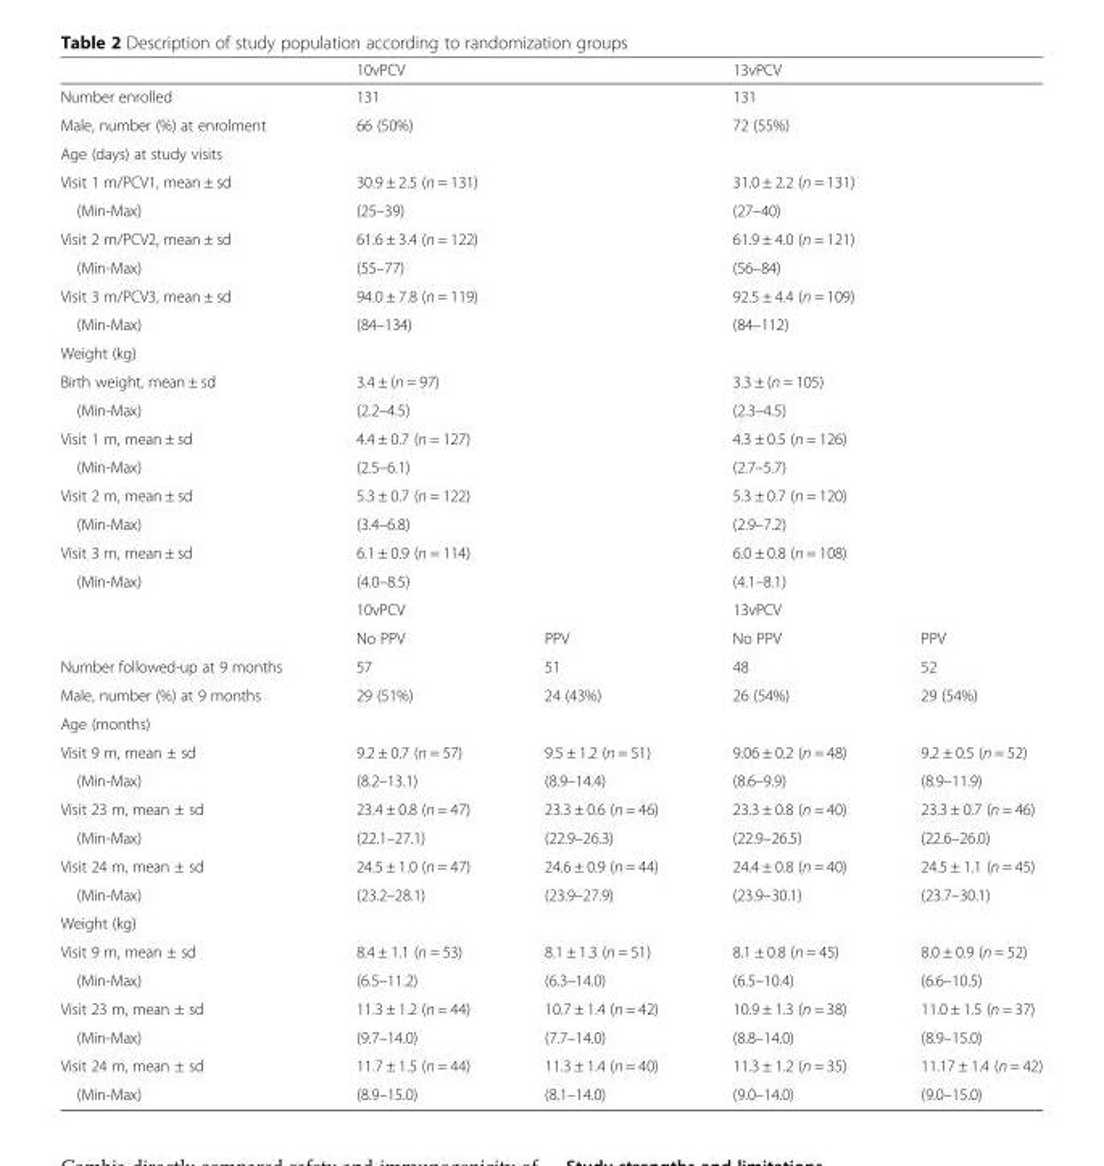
<table><thead><tr><td></td><td colspan="2">10vPCV</td><td colspan="2">13vPCV</td></tr></thead><tbody><tr><td>Number enrolled</td><td colspan="2">131</td><td colspan="2">131</td></tr><tr><td>Male, number (%) at enrolment</td><td colspan="2">66 (50%)</td><td colspan="2">72 (55%)</td></tr><tr><td colspan="5">Age (days) at study visits</td></tr><tr><td>Visit 1 m/PCV1, mean ± sd</td><td colspan="2">30.9 ± 2.5 (n = 131)</td><td colspan="2">31.0 ± 2.2 (n = 131)</td></tr><tr><td>(Min-Max)</td><td colspan="2">(25–39)</td><td colspan="2">(27–40)</td></tr><tr><td>Visit 2 m/PCV2, mean ± sd</td><td colspan="2">61.6 ± 3.4 (n = 122)</td><td colspan="2">61.9 ± 4.0 (n = 121)</td></tr><tr><td>(Min-Max)</td><td colspan="2">(55–77)</td><td colspan="2">(56–84)</td></tr><tr><td>Visit 3 m/PCV3, mean ± sd</td><td colspan="2">94.0 ± 7.8 (n = 119)</td><td colspan="2">92.5 ± 4.4 (n = 109)</td></tr><tr><td>(Min-Max)</td><td colspan="2">(84–134)</td><td colspan="2">(84–112)</td></tr><tr><td colspan="5">Weight (kg)</td></tr><tr><td>Birth weight, mean ± sd</td><td colspan="2">3.4 ± (n = 97)</td><td colspan="2">3.3 ± (n = 105)</td></tr><tr><td>(Min-Max)</td><td colspan="2">(2.2–4.5)</td><td colspan="2">(2.3–4.5)</td></tr><tr><td>Visit 1 m, mean ± sd</td><td colspan="2">4.4 ± 0.7 (n = 127)</td><td colspan="2">4.3 ± 0.5 (n = 126)</td></tr><tr><td>(Min-Max)</td><td colspan="2">(2.5–6.1)</td><td colspan="2">(2.7–5.7)</td></tr><tr><td>Visit 2 m, mean ± sd</td><td colspan="2">5.3 ± 0.7 (n = 122)</td><td colspan="2">5.3 ± 0.7 (n = 120)</td></tr><tr><td>(Min-Max)</td><td colspan="2">(3.4–6.8)</td><td colspan="2">(2.9–7.2)</td></tr><tr><td>Visit 3 m, mean ± sd</td><td colspan="2">6.1 ± 0.9 (n = 114)</td><td colspan="2">6.0 ± 0.8 (n = 108)</td></tr><tr><td rowspan="3">(Min-Max)</td><td colspan="2">(4.0–8.5)</td><td colspan="2">(4.1–8.1)</td></tr><tr><td colspan="2">10vPCV</td><td colspan="2">13vPCV</td></tr><tr><td>No PPV</td><td>PPV</td><td>No PPV</td><td>PPV</td></tr><tr><td>Number followed-up at 9 months</td><td>57</td><td>51</td><td>48</td><td>52</td></tr><tr><td>Male, number (%) at 9 months</td><td>29 (51%)</td><td>24 (43%)</td><td>26 (54%)</td><td>29 (54%)</td></tr><tr><td colspan="5">Age (months)</td></tr><tr><td>Visit 9 m, mean ± sd</td><td>9.2 ± 0.7 (n = 57)</td><td>9.5 ± 1.2 (n = 51)</td><td>9.06 ± 0.2 (n = 48)</td><td>9.2 ± 0.5 (n = 52)</td></tr><tr><td>(Min-Max)</td><td>(8.2–13.1)</td><td>(8.9–14.4)</td><td>(8.6–9.9)</td><td>(8.9–11.9)</td></tr><tr><td>Visit 23 m, mean ± sd</td><td>23.4 ± 0.8 (n = 47)</td><td>23.3 ± 0.6 (n = 46)</td><td>23.3 ± 0.8 (n = 40)</td><td>23.3 ± 0.7 (n = 46)</td></tr><tr><td>(Min-Max)</td><td>(22.1–27.1)</td><td>(22.9–26.3)</td><td>(22.9–26.5)</td><td>(22.6–26.0)</td></tr><tr><td>Visit 24 m, mean ± sd</td><td>24.5 ± 1.0 (n = 47)</td><td>24.6 ± 0.9 (n = 44)</td><td>24.4 ± 0.8 (n = 40)</td><td>24.5 ± 1.1 (n = 45)</td></tr><tr><td>(Min-Max)</td><td>(23.2–28.1)</td><td>(23.9–27.9)</td><td>(23.9–30.1)</td><td>(23.7–30.1)</td></tr><tr><td colspan="5">Weight (kg)</td></tr><tr><td>Visit 9 m, mean ± sd</td><td>8.4 ± 1.1 (n = 53)</td><td>8.1 ± 1.3 (n = 51)</td><td>8.1 ± 0.8 (n = 45)</td><td>8.0 ± 0.9 (n = 52)</td></tr><tr><td>(Min-Max)</td><td>(6.5–11.2)</td><td>(6.3–14.0)</td><td>(6.5–10.4)</td><td>(6.6–10.5)</td></tr><tr><td>Visit 23 m, mean ± sd</td><td>11.3 ± 1.2 (n = 44)</td><td>10.7 ± 1.4 (n = 42)</td><td>10.9 ± 1.3 (n = 38)</td><td>11.0 ± 1.5 (n = 37)</td></tr><tr><td>(Min-Max)</td><td>(9.7–14.0)</td><td>(7.7–14.0)</td><td>(8.8–14.0)</td><td>(8.9–15.0)</td></tr><tr><td>Visit 24 m, mean ± sd</td><td>11.7 ± 1.5 (n = 44)</td><td>11.3 ± 1.4 (n = 40)</td><td>11.3 ± 1.2 (n = 35)</td><td>11.17 ± 1.4 (n = 42)</td></tr><tr><td>(Min-Max)</td><td>(8.9–15.0)</td><td>(8.1–14.0)</td><td>(9.0–14.0)</td><td>(9.0–15.0)</td></tr></tbody></table>